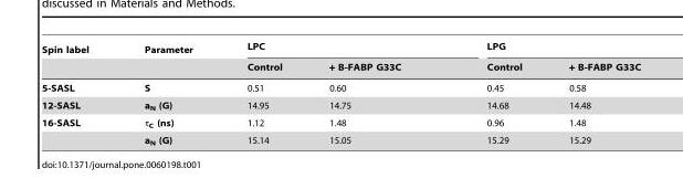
<table><thead><tr><td rowspan="2">Spin label</td><td rowspan="2">Parameter</td><td colspan="2">LPC</td><td colspan="2">LPG</td></tr><tr><td>Control</td><td>+ B-FABP G33C</td><td>Control</td><td>+ B-FABP G33C</td></tr></thead><tbody><tr><td>5-SASL</td><td>S</td><td>0.51</td><td>0.60</td><td>0.45</td><td>0.58</td></tr><tr><td>12-SASL</td><td>a<sub>N</sub> (G)</td><td>14.95</td><td>14.75</td><td>14.68</td><td>14.48</td></tr><tr><td rowspan="2">16-SASL</td><td>τ<sub>C</sub> (ns)</td><td>1.12</td><td>1.48</td><td>0.96</td><td>1.48</td></tr><tr><td>a<sub>N</sub> (G)</td><td>15.14</td><td>15.05</td><td>15.29</td><td>15.29</td></tr></tbody></table>